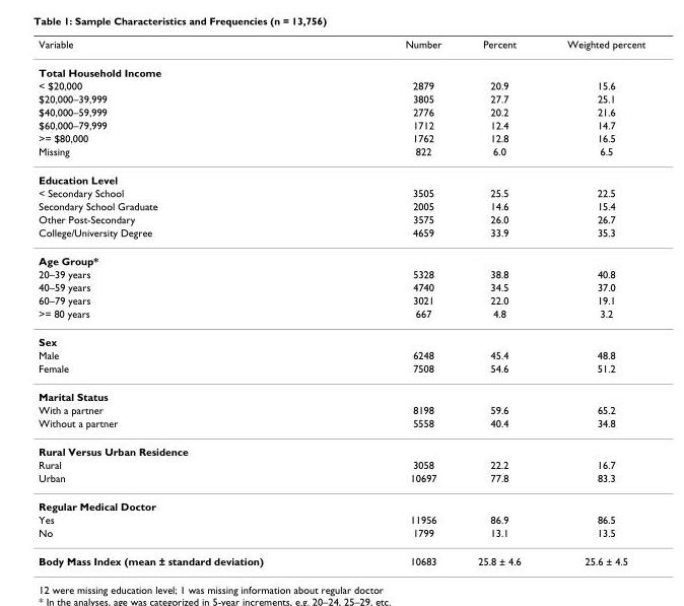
<table><thead><tr><td>Variable</td><td>Number</td><td>Percent</td><td>Weighted percent</td></tr></thead><tbody><tr><td colspan="4">Total Household Income</td></tr><tr><td>&lt; $20,000</td><td>2879</td><td>20.9</td><td>15.6</td></tr><tr><td>$20,000–39,999</td><td>3805</td><td>27.7</td><td>25.1</td></tr><tr><td>$40,000–59,999</td><td>2776</td><td>20.2</td><td>21.6</td></tr><tr><td>$60,000–79,999</td><td>1712</td><td>12.4</td><td>14.7</td></tr><tr><td>&gt;= $80,000</td><td>1762</td><td>12.8</td><td>16.5</td></tr><tr><td>Missing</td><td>822</td><td>6.0</td><td>6.5</td></tr><tr><td colspan="4">Education Level</td></tr><tr><td>&lt; Secondary School</td><td>3505</td><td>25.5</td><td>22.5</td></tr><tr><td>Secondary School Graduate</td><td>2005</td><td>14.6</td><td>15.4</td></tr><tr><td>Other Post-Secondary</td><td>3575</td><td>26.0</td><td>26.7</td></tr><tr><td>College/University Degree</td><td>4659</td><td>33.9</td><td>35.3</td></tr><tr><td colspan="4">Age Group*</td></tr><tr><td>20–39 years</td><td>5328</td><td>38.8</td><td>40.8</td></tr><tr><td>40–59 years</td><td>4740</td><td>34.5</td><td>37.0</td></tr><tr><td>60–79 years</td><td>3021</td><td>22.0</td><td>19.1</td></tr><tr><td>&gt;= 80 years</td><td>667</td><td>4.8</td><td>3.2</td></tr><tr><td colspan="4">Sex</td></tr><tr><td>Male</td><td>6248</td><td>45.4</td><td>48.8</td></tr><tr><td>Female</td><td>7508</td><td>54.6</td><td>51.2</td></tr><tr><td colspan="4">Marital Status</td></tr><tr><td>With a partner</td><td>8198</td><td>59.6</td><td>65.2</td></tr><tr><td>Without a partner</td><td>5558</td><td>40.4</td><td>34.8</td></tr><tr><td colspan="4">Rural Versus Urban Residence</td></tr><tr><td>Rural</td><td>3058</td><td>22.2</td><td>16.7</td></tr><tr><td>Urban</td><td>10697</td><td>77.8</td><td>83.3</td></tr><tr><td colspan="4">Regular Medical Doctor</td></tr><tr><td>Yes</td><td>11956</td><td>86.9</td><td>86.5</td></tr><tr><td>No</td><td>1799</td><td>13.1</td><td>13.5</td></tr><tr><td>Body Mass Index (mean ± standard deviation)</td><td>10683</td><td>25.8 ± 4.6</td><td>25.6 ± 4.5</td></tr></tbody></table>